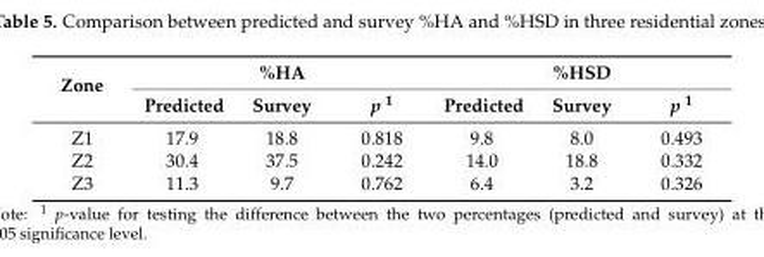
<table><thead><tr><td rowspan="2">Zone</td><td colspan="3">%HA</td><td colspan="3">%HSD</td></tr><tr><td>Predicted</td><td>Survey</td><td>p <sup>1</sup></td><td>Predicted</td><td>Survey</td><td>p <sup>1</sup></td></tr></thead><tbody><tr><td>Z1</td><td>17.9</td><td>18.8</td><td>0.818</td><td>9.8</td><td>8.0</td><td>0.493</td></tr><tr><td>Z2</td><td>30.4</td><td>37.5</td><td>0.242</td><td>14.0</td><td>18.8</td><td>0.332</td></tr><tr><td>Z3</td><td>11.3</td><td>9.7</td><td>0.762</td><td>6.4</td><td>3.2</td><td>0.326</td></tr></tbody></table>